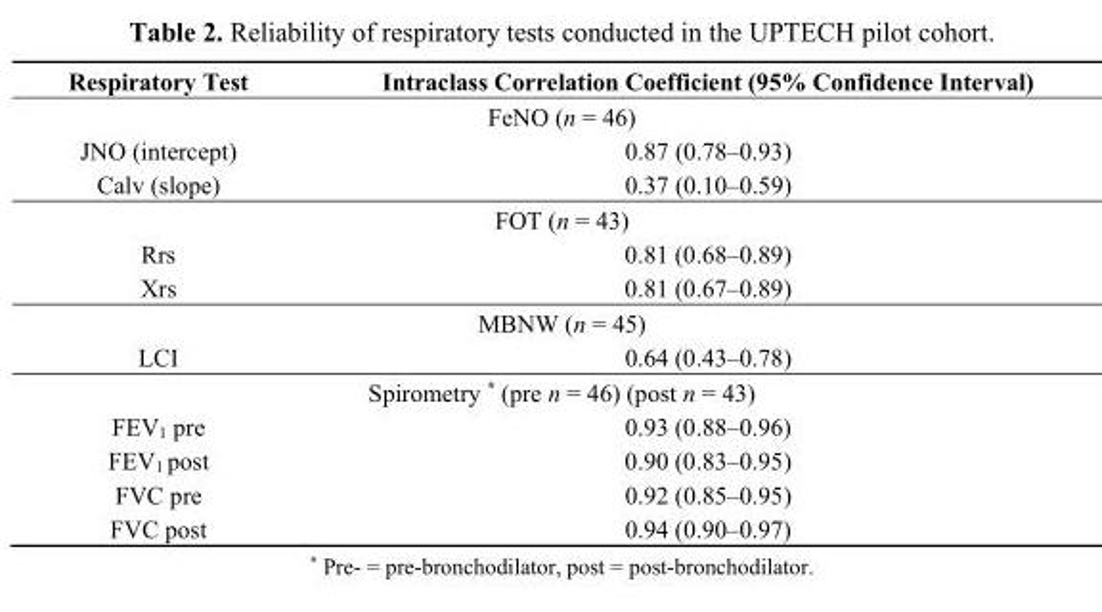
<table><thead><tr><td>Respiratory Test</td><td>Intraclass Correlation Coefficient (95% Confidence Interval)</td></tr></thead><tbody><tr><td colspan="2">FeNO (n = 46)</td></tr><tr><td>JNO (intercept)</td><td>0.87 (0.78–0.93)</td></tr><tr><td>Calv (slope)</td><td>0.37 (0.10–0.59)</td></tr><tr><td colspan="2">FOT (n = 43)</td></tr><tr><td>Rrs</td><td>0.81 (0.68–0.89)</td></tr><tr><td>Xrs</td><td>0.81 (0.67–0.89)</td></tr><tr><td colspan="2">MBNW (n = 45)</td></tr><tr><td>LCI</td><td>0.64 (0.43–0.78)</td></tr><tr><td colspan="2">Spirometry * (pre n = 46) (post n = 43)</td></tr><tr><td>FEV<sub>1</sub> pre</td><td>0.93 (0.88–0.96)</td></tr><tr><td>FEV<sub>1</sub> post</td><td>0.90 (0.83–0.95)</td></tr><tr><td>FVC pre</td><td>0.92 (0.85–0.95)</td></tr><tr><td>FVC post</td><td>0.94 (0.90–0.97)</td></tr></tbody></table>